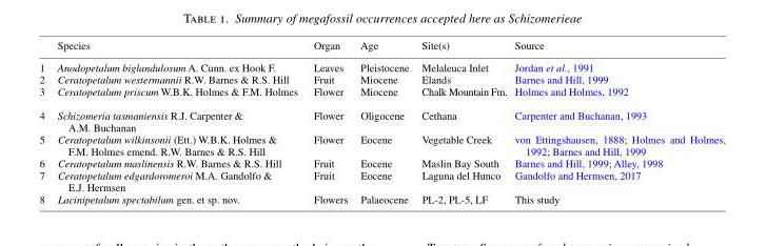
<table><thead><tr><td></td><td>Species</td><td>Organ</td><td>Age</td><td>Site(s)</td><td>Source</td></tr></thead><tbody><tr><td>1</td><td>Anodopetalum biglandulosum A. Cunn. ex Hook F.</td><td>Leaves</td><td>Pleistocene</td><td>Melaleuca Inlet</td><td>Jordan et al., 1991</td></tr><tr><td>2</td><td>Ceratopetalum westermannii R.W. Barnes &amp; R.S. Hill</td><td>Fruit</td><td>Miocene</td><td>Elands</td><td>Barnes and Hill, 1999</td></tr><tr><td>3</td><td>Ceratopetalum priscum W.B.K. Holmes &amp; F.M. Holmes</td><td>Flower</td><td>Miocene</td><td>Chalk Mountain Fm.</td><td>Holmes and Holmes, 1992</td></tr><tr><td>4</td><td>Schizomeria tasmaniensis R.J. Carpenter &amp; A.M. Buchanan</td><td>Flower</td><td>Oligocene</td><td>Cethana</td><td>Carpenter and Buchanan, 1993</td></tr><tr><td>5</td><td>Ceratopetalum wilkinsonii (Ett.) W.B.K. Holmes &amp; F.M. Holmes emend. R.W. Barnes &amp; R.S. Hill</td><td>Flower</td><td>Eocene</td><td>Vegetable Creek</td><td>von Ettingshausen, 1888; Holmes and Holmes, 1992; Barnes and Hill, 1999</td></tr><tr><td>6</td><td>Ceratopetalum maslinensis R.W. Barnes &amp; R.S. Hill</td><td>Fruit</td><td>Eocene</td><td>Maslin Bay South</td><td>Barnes and Hill, 1999; Alley, 1998</td></tr><tr><td>7</td><td>Ceratopetalum edgardoromeroi M.A. Gandolfo &amp; E.J. Hermsen</td><td>Fruit</td><td>Eocene</td><td>Laguna del Hunco</td><td>Gandolfo and Hermsen, 2017</td></tr><tr><td>8</td><td>Lacinipetalum spectabilum gen. et sp. nov.</td><td>Flowers</td><td>Palaeocene</td><td>PL-2, PL-5, LF</td><td>This study</td></tr></tbody></table>